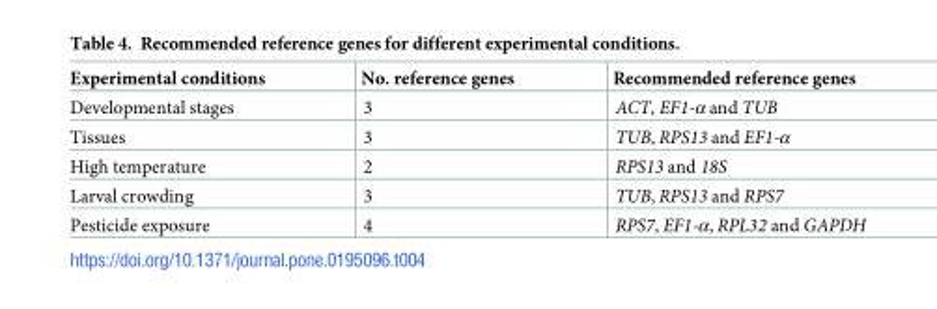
<table><thead><tr><td>Experimental conditions</td><td>No. reference genes</td><td>Recommended reference genes</td></tr></thead><tbody><tr><td>Developmental stages</td><td>3</td><td>ACT, EF1-α and TUB</td></tr><tr><td>Tissues</td><td>3</td><td>TUB, RPS13 and EF1-α</td></tr><tr><td>High temperature</td><td>2</td><td>RPS13 and 18S</td></tr><tr><td>Larval crowding</td><td>3</td><td>TUB, RPS13 and RPS7</td></tr><tr><td>Pesticide exposure</td><td>4</td><td>RPS7, EF1-α, RPL32 and GAPDH</td></tr></tbody></table>